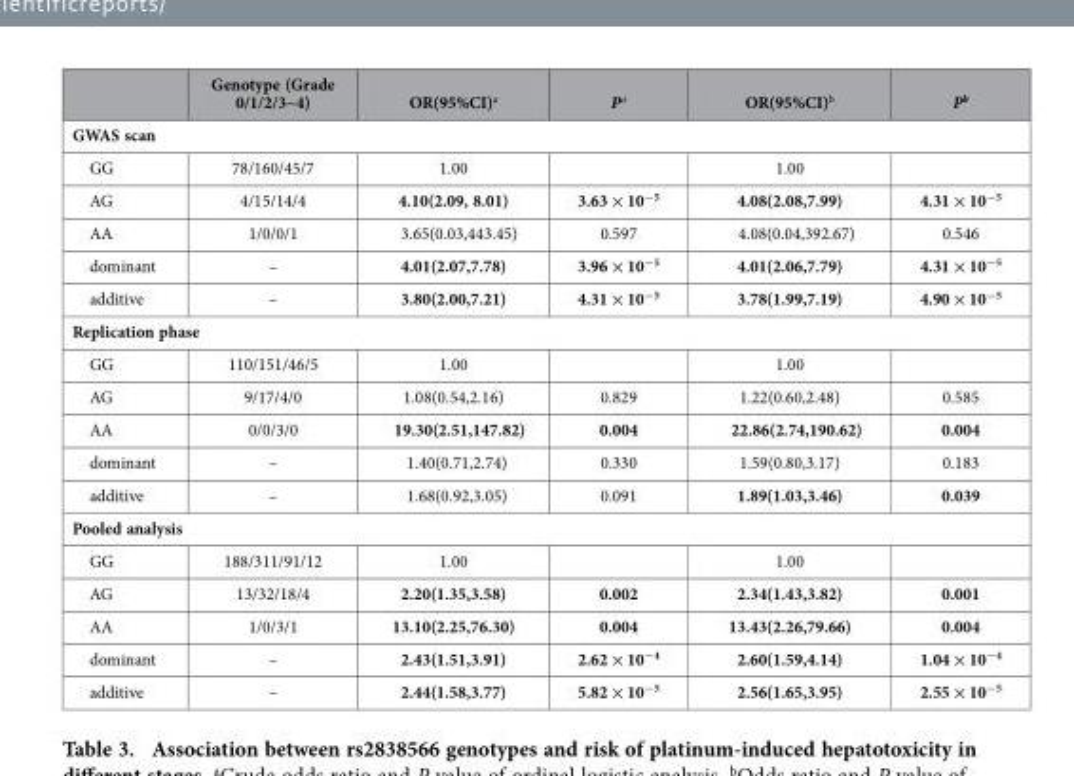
<table><thead><tr><td></td><td>Genotype (Grade 0/1/2/3~4)</td><td>OR(95%CI)<sup>a</sup></td><td>P<sup>a</sup></td><td>OR(95%CI)<sup>b</sup></td><td>P<sup>b</sup></td></tr></thead><tbody><tr><td colspan="6">GWAS scan</td></tr><tr><td>GG</td><td>78/160/45/7</td><td>1.00</td><td></td><td>1.00</td><td></td></tr><tr><td>AG</td><td>4/15/14/4</td><td>4.10(2.09, 8.01)</td><td>3.63 × 10<sup>−5</sup></td><td>4.08(2.08,7.99)</td><td>4.31 × 10<sup>−5</sup></td></tr><tr><td>AA</td><td>1/0/0/1</td><td>3.65(0.03,443.45)</td><td>0.597</td><td>4.08(0.04,392.67)</td><td>0.546</td></tr><tr><td>dominant</td><td>–</td><td>4.01(2.07,7.78)</td><td>3.96 × 10<sup>−5</sup></td><td>4.01(2.06,7.79)</td><td>4.31 × 10<sup>−5</sup></td></tr><tr><td>additive</td><td>–</td><td>3.80(2.00,7.21)</td><td>4.31 × 10<sup>−5</sup></td><td>3.78(1.99,7.19)</td><td>4.90 × 10<sup>−5</sup></td></tr><tr><td colspan="6">Replication phase</td></tr><tr><td>GG</td><td>110/151/46/5</td><td>1.00</td><td></td><td>1.00</td><td></td></tr><tr><td>AG</td><td>9/17/4/0</td><td>1.08(0.54,2.16)</td><td>0.829</td><td>1.22(0.60,2.48)</td><td>0.585</td></tr><tr><td>AA</td><td>0/0/3/0</td><td>19.30(2.51,147.82)</td><td>0.004</td><td>22.86(2.74,190.62)</td><td>0.004</td></tr><tr><td>dominant</td><td>–</td><td>1.40(0.71,2.74)</td><td>0.330</td><td>1.59(0.80,3.17)</td><td>0.183</td></tr><tr><td>additive</td><td>–</td><td>1.68(0.92,3.05)</td><td>0.091</td><td>1.89(1.03,3.46)</td><td>0.039</td></tr><tr><td colspan="6">Pooled analysis</td></tr><tr><td>GG</td><td>188/311/91/12</td><td>1.00</td><td></td><td>1.00</td><td></td></tr><tr><td>AG</td><td>13/32/18/4</td><td>2.20(1.35,3.58)</td><td>0.002</td><td>2.34(1.43,3.82)</td><td>0.001</td></tr><tr><td>AA</td><td>1/0/3/1</td><td>13.10(2.25,76.30)</td><td>0.004</td><td>13.43(2.26,79.66)</td><td>0.004</td></tr><tr><td>dominant</td><td>–</td><td>2.43(1.51,3.91)</td><td>2.62 × 10<sup>−4</sup></td><td>2.60(1.59,4.14)</td><td>1.04 × 10<sup>−4</sup></td></tr><tr><td>additive</td><td>–</td><td>2.44(1.58,3.77)</td><td>5.82 × 10<sup>−5</sup></td><td>2.56(1.65,3.95)</td><td>2.55 × 10<sup>−5</sup></td></tr></tbody></table>